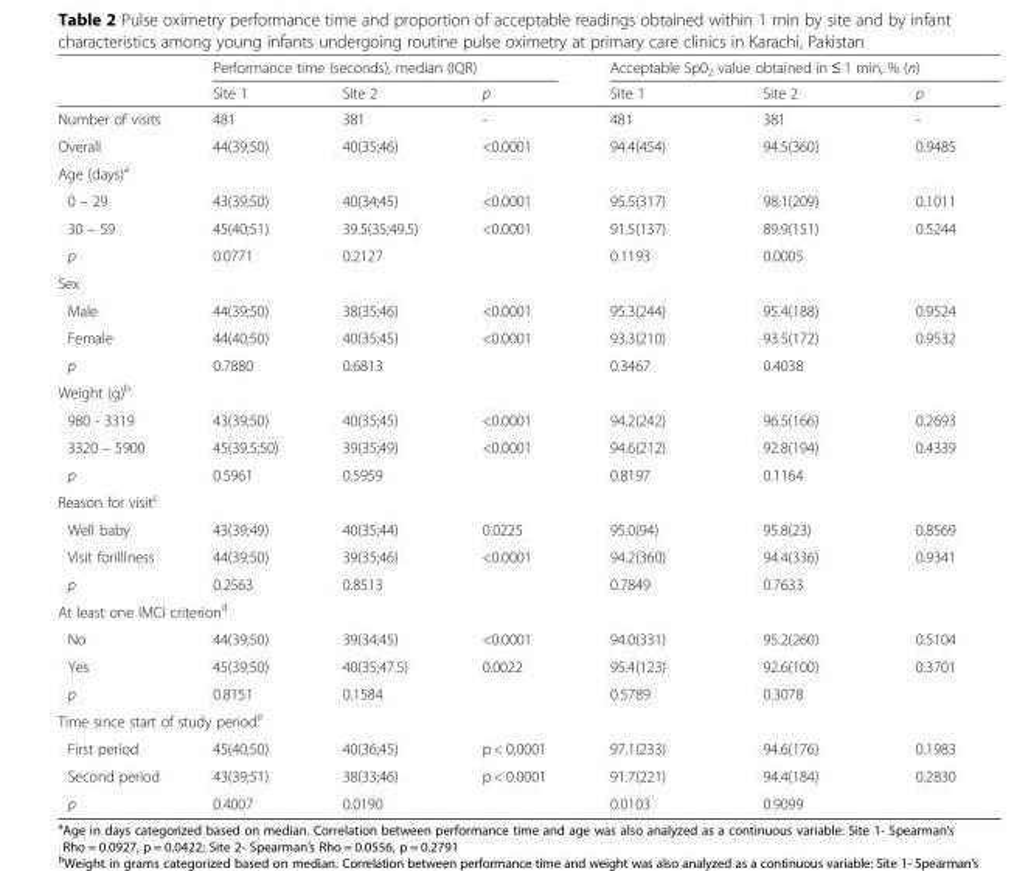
<table><thead><tr><td rowspan="2"></td><td colspan="3">Performance time (seconds), median (IQR)</td><td colspan="3">Acceptable Sp0<sub>2</sub> value obtained in ≤ 1 min, % (n)</td></tr><tr><td>Site 1</td><td>Site 2</td><td>p</td><td>Site 1</td><td>Site 2</td><td>p</td></tr></thead><tbody><tr><td>Number of visits</td><td>481</td><td>381</td><td>-</td><td>481</td><td>381</td><td>-</td></tr><tr><td>Overall</td><td>44(39;50)</td><td>40(35;46)</td><td>&lt;0.0001</td><td>94.4(454)</td><td>94.5(360)</td><td>0.9485</td></tr><tr><td colspan="7">Age (days)<sup>a</sup></td></tr><tr><td>0 – 29</td><td>43(39;50)</td><td>40(34;45)</td><td>&lt;0.0001</td><td>95.5(317)</td><td>98.1(209)</td><td>0.1011</td></tr><tr><td>30 – 59</td><td>45(40;51)</td><td>39.5(35;49.5)</td><td>&lt;0.0001</td><td>91.5(137)</td><td>89.9(151)</td><td>0.5244</td></tr><tr><td>p</td><td>0.0771</td><td>0.2127</td><td></td><td>0.1193</td><td>0.0005</td><td></td></tr><tr><td colspan="7">Sex</td></tr><tr><td>Male</td><td>44(39;50)</td><td>38(35;46)</td><td>&lt;0.0001</td><td>95.3(244)</td><td>95.4(188)</td><td>0.9524</td></tr><tr><td>Female</td><td>44(40;50)</td><td>40(35;45)</td><td>&lt;0.0001</td><td>93.3(210)</td><td>93.5(172)</td><td>0.9532</td></tr><tr><td>p</td><td>0.7880</td><td>0.6813</td><td></td><td>0.3467</td><td>0.4038</td><td></td></tr><tr><td colspan="7">Weight (g)<sup>b</sup></td></tr><tr><td>980 - 3319</td><td>43(39;50)</td><td>40(35;45)</td><td>&lt;0.0001</td><td>94.2(242)</td><td>96.5(166)</td><td>0.2693</td></tr><tr><td>3320 – 5900</td><td>45(39.5;50)</td><td>39(35;49)</td><td>&lt;0.0001</td><td>94.6(212)</td><td>92.8(194)</td><td>0.4339</td></tr><tr><td>p</td><td>0.5961</td><td>0.5959</td><td></td><td>0.8197</td><td>0.1164</td><td></td></tr><tr><td colspan="7">Reason for visit<sup>c</sup></td></tr><tr><td>Well baby</td><td>43(39;49)</td><td>40(35;44)</td><td>0.0225</td><td>95.0(94)</td><td>95.8(23)</td><td>0.8569</td></tr><tr><td>Visit foriIllness</td><td>44(39;50)</td><td>39(35;46)</td><td>&lt;0.0001</td><td>94.2(360)</td><td>94.4(336)</td><td>0.9341</td></tr><tr><td>p</td><td>0.2563</td><td>0.8513</td><td></td><td>0.7849</td><td>0.7633</td><td></td></tr><tr><td colspan="7">At least one IMCI criterion<sup>d</sup></td></tr><tr><td>No</td><td>44(39;50)</td><td>39(34;45)</td><td>&lt;0.0001</td><td>94.0(331)</td><td>95.2(260)</td><td>0.5104</td></tr><tr><td>Yes</td><td>45(39;50)</td><td>40(35;47.5)</td><td>0.0022</td><td>95.4(123)</td><td>92.6(100)</td><td>0.3701</td></tr><tr><td>p</td><td>0.8151</td><td>0.1584</td><td></td><td>0.5789</td><td>0.3078</td><td></td></tr><tr><td colspan="7">Time since start of study period<sup>e</sup></td></tr><tr><td>First period</td><td>45(40;50)</td><td>40(36;45)</td><td>p &lt; 0.0001</td><td>97.1(233)</td><td>94.6(176)</td><td>0.1983</td></tr><tr><td>Second period</td><td>43(39;51)</td><td>38(33;46)</td><td>p &lt; 0.0001</td><td>91.7(221)</td><td>94.4(184)</td><td>0.2830</td></tr><tr><td>p</td><td>0.4007</td><td>0.0190</td><td></td><td>0.0103</td><td>0.9099</td><td></td></tr></tbody></table>